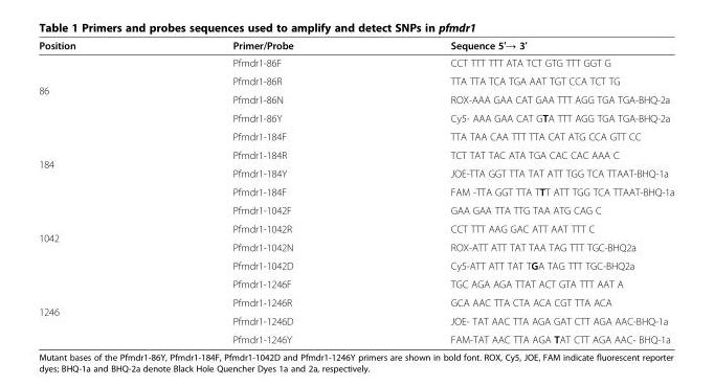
<table><thead><tr><td>Position</td><td>Primer/Probe</td><td>Sequence 5′→ 3′</td></tr></thead><tbody><tr><td rowspan="4">86</td><td>Pfmdr1-86F</td><td>CCT TTT TTT ATA TCT GTG TTT GGT G</td></tr><tr><td>Pfmdr1-86R</td><td>TTA TTA TCA TGA AAT TGT CCA TCT TG</td></tr><tr><td>Pfmdr1-86N</td><td>ROX-AAA GAA CAT GAA TTT AGG TGA TGA-BHQ-2a</td></tr><tr><td>Pfmdr1-86Y</td><td>Cy5- AAA GAA CAT GTA TTT AGG TGA TGA-BHQ-2a</td></tr><tr><td rowspan="4">184</td><td>Pfmdr1-184F</td><td>TTA TAA CAA TTT TTA CAT ATG CCA GTT CC</td></tr><tr><td>Pfmdr1-184R</td><td>TCT TAT TAC ATA TGA CAC CAC AAA C</td></tr><tr><td>Pfmdr1-184Y</td><td>JOE-TTA GGT TTA TAT ATT TGG TCA TTAAT-BHQ-1a</td></tr><tr><td>Pfmdr1-184F</td><td>FAM -TTA GGT TTA TTT ATT TGG TCA TTAAT-BHQ-1a</td></tr><tr><td rowspan="4">1042</td><td>Pfmdr1-1042F</td><td>GAA GAA TTA TTG TAA ATG CAG C</td></tr><tr><td>Pfmdr1-1042R</td><td>CCT TTT AAG GAC ATT AAT TTT C</td></tr><tr><td>Pfmdr1-1042N</td><td>ROX-ATT ATT TAT TAA TAG TTT TGC-BHQ2a</td></tr><tr><td>Pfmdr1-1042D</td><td>Cy5-ATT ATT TAT TGA TAG TTT TGC-BHQ2a</td></tr><tr><td rowspan="4">1246</td><td>Pfmdr1-1246F</td><td>TGC AGA AGA TTAT ACT GTA TTT AAT A</td></tr><tr><td>Pfmdr1-1246R</td><td>GCA AAC TTA CTA ACA CGT TTA ACA</td></tr><tr><td>Pfmdr1-1246D</td><td>JOE- TAT AAC TTA AGA GAT CTT AGA AAC-BHQ-1a</td></tr><tr><td>Pfmdr1-1246Y</td><td>FAM-TAT AAC TTA AGA TAT CTT AGA AAC- BHQ-1a</td></tr></tbody></table>